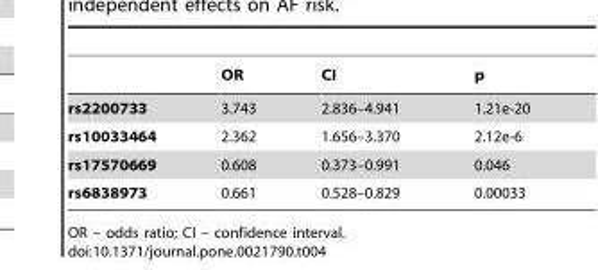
<table><thead><tr><td></td><td>OR</td><td>CI</td><td>p</td></tr></thead><tbody><tr><td>rs2200733</td><td>3.743</td><td>2.836–4.941</td><td>1.21e-20</td></tr><tr><td>rs10033464</td><td>2.362</td><td>1.656–3.370</td><td>2.12e-6</td></tr><tr><td>rs17570669</td><td>0.608</td><td>0.373–0.991</td><td>0.046</td></tr><tr><td>rs6838973</td><td>0.661</td><td>0.528–0.829</td><td>0.00033</td></tr></tbody></table>